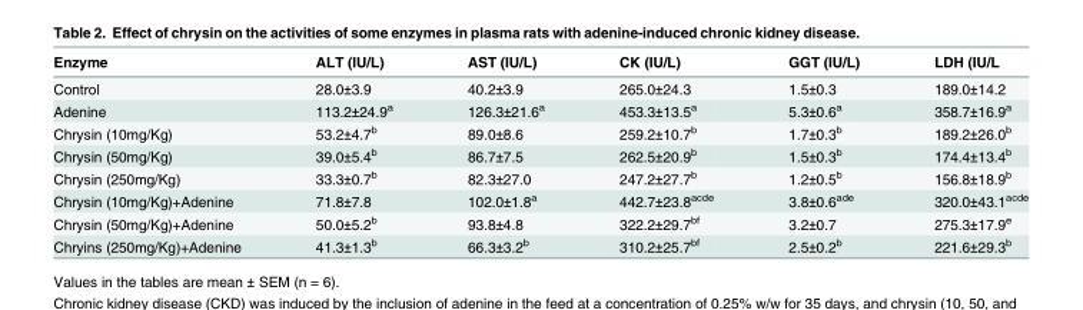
<table><thead><tr><td>Enzyme</td><td>ALT (IU/L)</td><td>AST (IU/L)</td><td>CK (IU/L)</td><td>GGT (IU/L)</td><td>LDH (IU/L</td></tr></thead><tbody><tr><td>Control</td><td>28.0±3.9</td><td>40.2±3.9</td><td>265.0±24.3</td><td>1.5±0.3</td><td>189.0±14.2</td></tr><tr><td>Adenine</td><td>113.2±24.9<sup>a</sup></td><td>126.3±21.6<sup>a</sup></td><td>453.3±13.5<sup>a</sup></td><td>5.3±0.6<sup>a</sup></td><td>358.7±16.9<sup>a</sup></td></tr><tr><td>Chrysin (10mg/Kg)</td><td>53.2±4.7<sup>b</sup></td><td>89.0±8.6</td><td>259.2±10.7<sup>b</sup></td><td>1.7±0.3<sup>b</sup></td><td>189.2±26.0<sup>b</sup></td></tr><tr><td>Chrysin (50mg/Kg)</td><td>39.0±5.4<sup>b</sup></td><td>86.7±7.5</td><td>262.5±20.9<sup>b</sup></td><td>1.5±0.3<sup>b</sup></td><td>174.4±13.4<sup>b</sup></td></tr><tr><td>Chrysin (250mg/Kg)</td><td>33.3±0.7<sup>b</sup></td><td>82.3±27.0</td><td>247.2±27.7<sup>b</sup></td><td>1.2±0.5<sup>b</sup></td><td>156.8±18.9<sup>b</sup></td></tr><tr><td>Chrysin (10mg/Kg)+Adenine</td><td>71.8±7.8</td><td>102.0±1.8<sup>a</sup></td><td>442.7±23.8<sup>acde</sup></td><td>3.8±0.6<sup>ade</sup></td><td>320.0±43.1<sup>acde</sup></td></tr><tr><td>Chrysin (50mg/Kg)+Adenine</td><td>50.0±5.2<sup>b</sup></td><td>93.8±4.8</td><td>322.2±29.7<sup>bf</sup></td><td>3.2±0.7</td><td>275.3±17.9<sup>e</sup></td></tr><tr><td>Chryins (250mg/Kg)+Adenine</td><td>41.3±1.3<sup>b</sup></td><td>66.3±3.2<sup>b</sup></td><td>310.2±25.7<sup>bf</sup></td><td>2.5±0.2<sup>b</sup></td><td>221.6±29.3<sup>b</sup></td></tr></tbody></table>